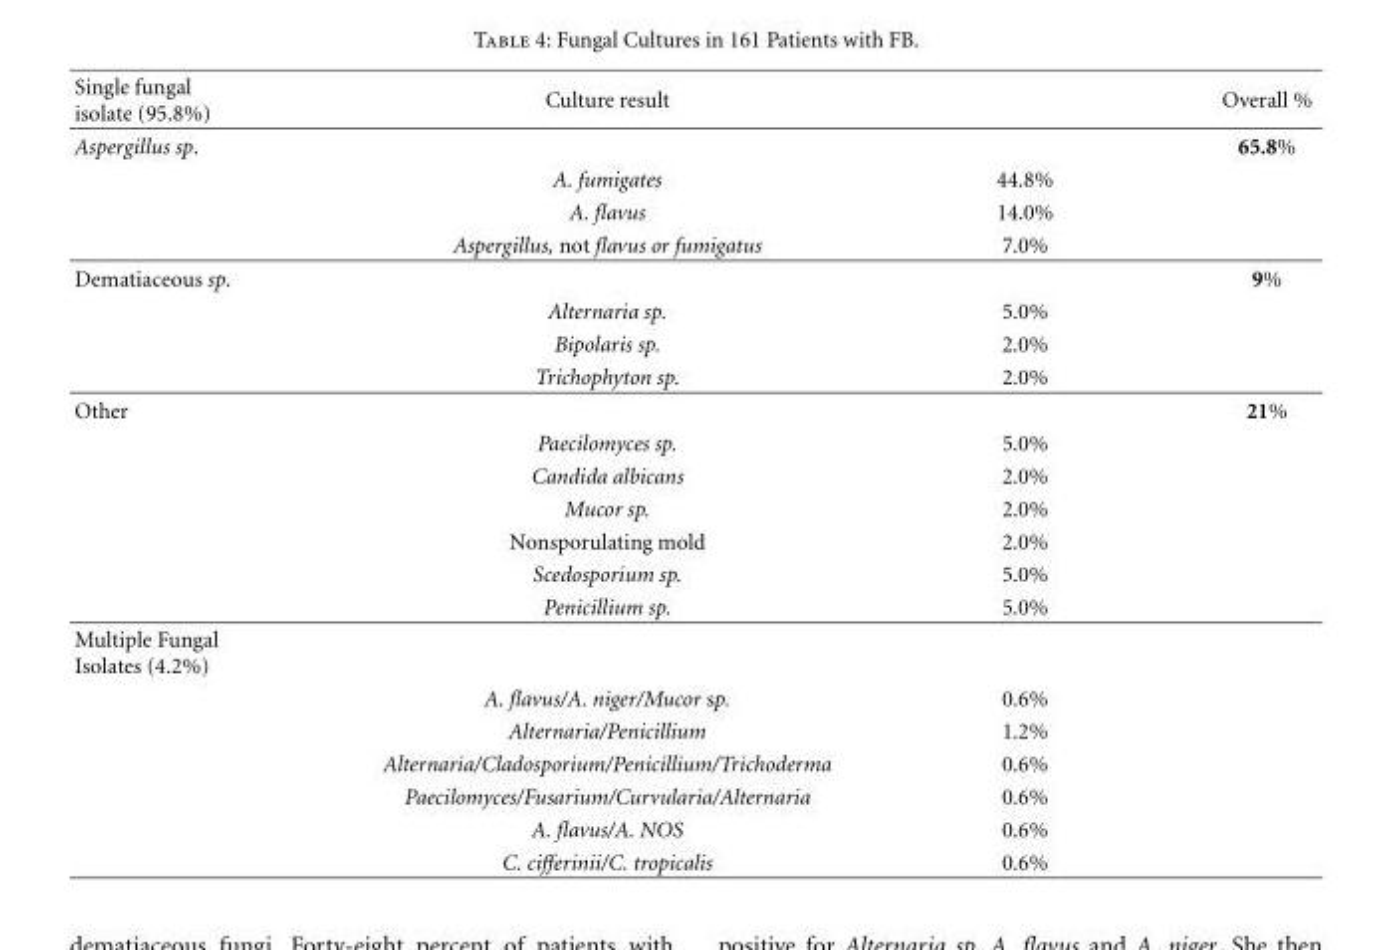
<table><thead><tr><td>Single fungal isolate (95.8%)</td><td>Culture result</td><td></td><td>Overall %</td></tr></thead><tbody><tr><td rowspan="4">Aspergillus sp.</td><td></td><td></td><td>65.8%</td></tr><tr><td>A. fumigates</td><td>44.8%</td><td></td></tr><tr><td>A. flavus</td><td>14.0%</td><td></td></tr><tr><td>Aspergillus, not flavus or fumigatus</td><td>7.0%</td><td></td></tr><tr><td rowspan="4">Dematiaceous sp.</td><td></td><td></td><td>9%</td></tr><tr><td>Alternaria sp.</td><td>5.0%</td><td></td></tr><tr><td>Bipolaris sp.</td><td>2.0%</td><td></td></tr><tr><td>Trichophyton sp.</td><td>2.0%</td><td></td></tr><tr><td rowspan="7">Other</td><td></td><td></td><td>21%</td></tr><tr><td>Paecilomyces sp.</td><td>5.0%</td><td></td></tr><tr><td>Candida albicans</td><td>2.0%</td><td></td></tr><tr><td>Mucor sp.</td><td>2.0%</td><td></td></tr><tr><td>Nonsporulating mold</td><td>2.0%</td><td></td></tr><tr><td>Scedosporium sp.</td><td>5.0%</td><td></td></tr><tr><td>Penicillium sp.</td><td>5.0%</td><td></td></tr><tr><td colspan="4">Multiple Fungal Isolates (4.2%)</td></tr><tr><td></td><td>A. flavus/A. niger/Mucor sp.</td><td>0.6%</td><td></td></tr><tr><td></td><td>Alternaria/Penicillium</td><td>1.2%</td><td></td></tr><tr><td></td><td>Alternaria/Cladosporium/Penicillium/Trichoderma</td><td>0.6%</td><td></td></tr><tr><td></td><td>Paecilomyces/Fusarium/Curvularia/Alternaria</td><td>0.6%</td><td></td></tr><tr><td></td><td>A. flavus/A. NOS</td><td>0.6%</td><td></td></tr><tr><td></td><td>C. cifferinii/C. tropicalis</td><td>0.6%</td><td></td></tr></tbody></table>